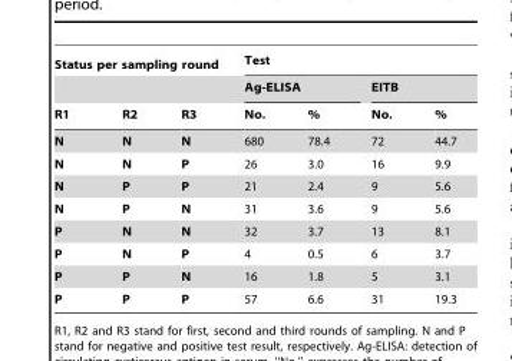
<table><thead><tr><td colspan="3">Status per sampling round</td><td colspan="4">Test</td></tr><tr><td rowspan="2">R1</td><td rowspan="2">R2</td><td rowspan="2">R3</td><td colspan="2">Ag-ELISA</td><td colspan="2">EITB</td></tr><tr><td>No.</td><td>%</td><td>No.</td><td>%</td></tr></thead><tbody><tr><td>N</td><td>N</td><td>N</td><td>680</td><td>78.4</td><td>72</td><td>44.7</td></tr><tr><td>N</td><td>N</td><td>P</td><td>26</td><td>3.0</td><td>16</td><td>9.9</td></tr><tr><td>N</td><td>P</td><td>P</td><td>21</td><td>2.4</td><td>9</td><td>5.6</td></tr><tr><td>N</td><td>P</td><td>N</td><td>31</td><td>3.6</td><td>9</td><td>5.6</td></tr><tr><td>P</td><td>N</td><td>N</td><td>32</td><td>3.7</td><td>13</td><td>8.1</td></tr><tr><td>P</td><td>N</td><td>P</td><td>4</td><td>0.5</td><td>6</td><td>3.7</td></tr><tr><td>P</td><td>P</td><td>N</td><td>16</td><td>1.8</td><td>5</td><td>3.1</td></tr><tr><td>P</td><td>P</td><td>P</td><td>57</td><td>6.6</td><td>31</td><td>19.3</td></tr></tbody></table>